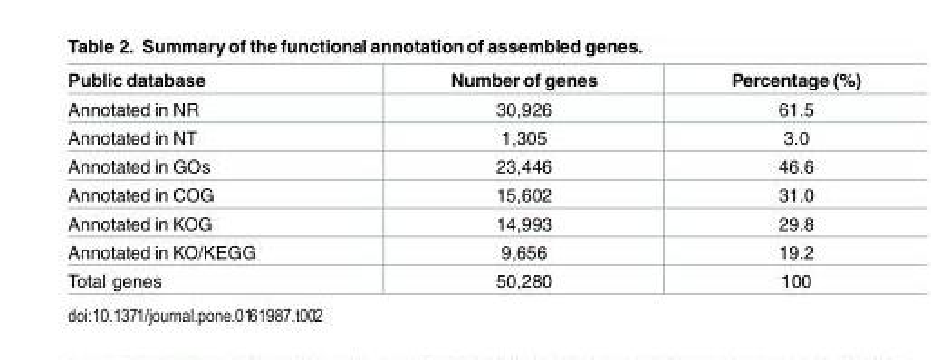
<table><thead><tr><td>Public database</td><td>Number of genes</td><td>Percentage (%)</td></tr></thead><tbody><tr><td>Annotated in NR</td><td>30,926</td><td>61.5</td></tr><tr><td>Annotated in NT</td><td>1,305</td><td>3.0</td></tr><tr><td>Annotated in GOs</td><td>23,446</td><td>46.6</td></tr><tr><td>Annotated in COG</td><td>15,602</td><td>31.0</td></tr><tr><td>Annotated in KOG</td><td>14,993</td><td>29.8</td></tr><tr><td>Annotated in KO/KEGG</td><td>9,656</td><td>19.2</td></tr><tr><td>Total genes</td><td>50,280</td><td>100</td></tr></tbody></table>